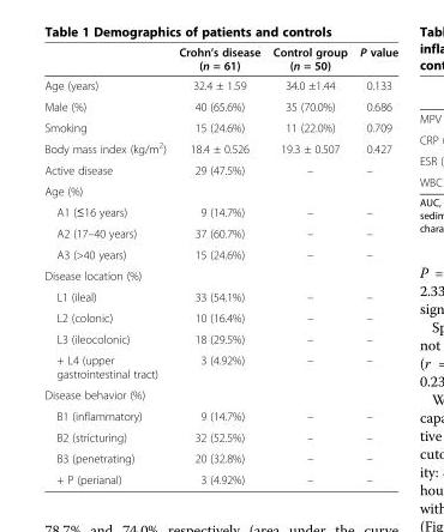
<table><thead><tr><td></td><td>Crohn’s disease (n = 61)</td><td>Control group (n = 50)</td><td>P value</td></tr></thead><tbody><tr><td>Age (years)</td><td>32.4 ± 1.59</td><td>34.0 ±1.44</td><td>0.133</td></tr><tr><td>Male (%)</td><td>40 (65.6%)</td><td>35 (70.0%)</td><td>0.686</td></tr><tr><td>Smoking</td><td>15 (24.6%)</td><td>11 (22.0%)</td><td>0.709</td></tr><tr><td>Body mass index (kg/m<sup>2</sup>)</td><td>18.4 ± 0.526</td><td>19.3 ± 0.507</td><td>0.427</td></tr><tr><td>Active disease</td><td>29 (47.5%)</td><td>–</td><td>–</td></tr><tr><td colspan="4">Age (%)</td></tr><tr><td>A1 (≤16 years)</td><td>9 (14.7%)</td><td>–</td><td>–</td></tr><tr><td>A2 (17–40 years)</td><td>37 (60.7%)</td><td>–</td><td>–</td></tr><tr><td>A3 (&gt;40 years)</td><td>15 (24.6%)</td><td>–</td><td>–</td></tr><tr><td colspan="4">Disease location (%)</td></tr><tr><td>L1 (ileal)</td><td>33 (54.1%)</td><td>–</td><td>–</td></tr><tr><td>L2 (colonic)</td><td>10 (16.4%)</td><td>–</td><td>–</td></tr><tr><td>L3 (ileocolonic)</td><td>18 (29.5%)</td><td>–</td><td>–</td></tr><tr><td>+ L4 (upper gastrointestinal tract)</td><td>3 (4.92%)</td><td>–</td><td>–</td></tr><tr><td colspan="4">Disease behavior (%)</td></tr><tr><td>B1 (inflammatory)</td><td>9 (14.7%)</td><td>–</td><td>–</td></tr><tr><td>B2 (stricturing)</td><td>32 (52.5%)</td><td>–</td><td>–</td></tr><tr><td>B3 (penetrating)</td><td>20 (32.8%)</td><td>–</td><td>–</td></tr><tr><td>+ P (perianal)</td><td>3 (4.92%)</td><td>–</td><td>–</td></tr></tbody></table>